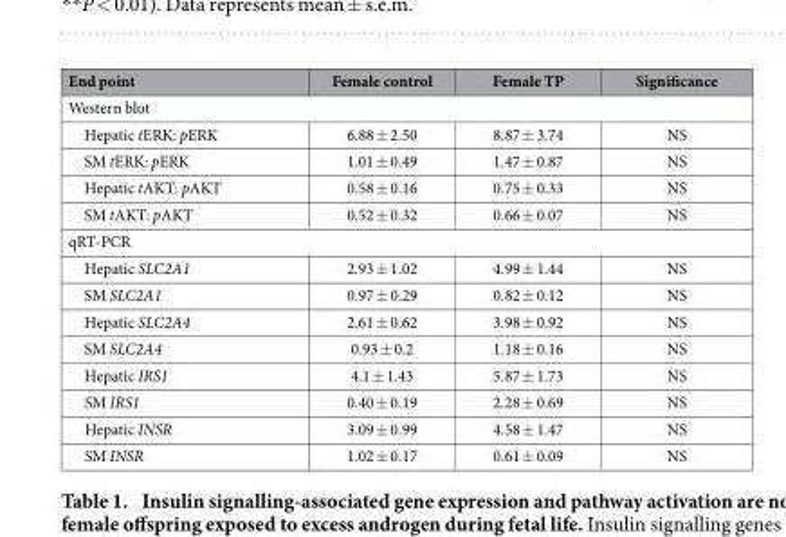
<table><thead><tr><td>End point</td><td>Female control</td><td>Female TP</td><td>Significance</td></tr></thead><tbody><tr><td colspan="4">Western blot</td></tr><tr><td>Hepatic tERK: pERK</td><td>6.88 ± 2.50</td><td>8.87 ± 3.74</td><td>NS</td></tr><tr><td>SM tERK: pERK</td><td>1.01 ± 0.49</td><td>1.47 ± 0.87</td><td>NS</td></tr><tr><td>Hepatic tAKT: pAKT</td><td>0.58 ± 0.16</td><td>0.75 ± 0.33</td><td>NS</td></tr><tr><td>SM tAKT: pAKT</td><td>0.52 ± 0.32</td><td>0.66 ± 0.07</td><td>NS</td></tr><tr><td colspan="4">qRT-PCR</td></tr><tr><td>Hepatic SLC2A1</td><td>2.93 ± 1.02</td><td>4.99 ± 1.44</td><td>NS</td></tr><tr><td>SM SLC2A1</td><td>0.97 ± 0.29</td><td>0.82 ± 0.12</td><td>NS</td></tr><tr><td>Hepatic SLC2A4</td><td>2.61 ± 0.62</td><td>3.98 ± 0.92</td><td>NS</td></tr><tr><td>SM SLC2A4</td><td>0.93 ± 0.2</td><td>1.18 ± 0.16</td><td>NS</td></tr><tr><td>Hepatic IRS1</td><td>4.1 ± 1.43</td><td>5.87 ± 1.73</td><td>NS</td></tr><tr><td>SM IRS1</td><td>0.40 ± 0.19</td><td>2.28 ± 0.69</td><td>NS</td></tr><tr><td>Hepatic INSR</td><td>3.09 ± 0.99</td><td>4.58 ± 1.47</td><td>NS</td></tr><tr><td>SM INSR</td><td>1.02 ± 0.17</td><td>0.61 ± 0.09</td><td>NS</td></tr></tbody></table>